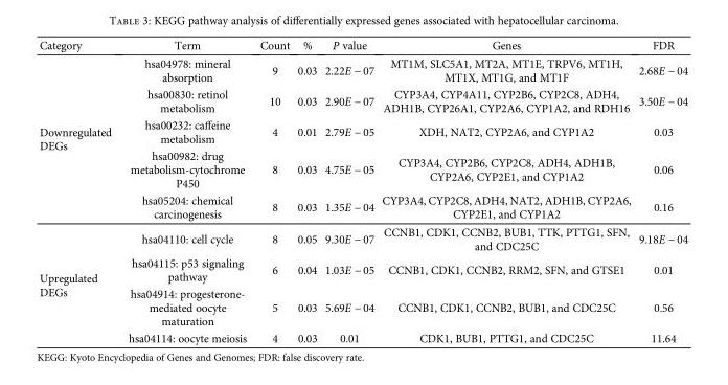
<table><thead><tr><td>Category</td><td>Term</td><td>Count</td><td>%</td><td>P value</td><td>Genes</td><td>FDR</td></tr></thead><tbody><tr><td rowspan="5">Downregulated DEGs</td><td>hsa04978: mineral absorption</td><td>9</td><td>0.03</td><td>2.22E − 07</td><td>MT1M, SLC5A1, MT2A, MT1E, TRPV6, MT1H, MT1X, MT1G, and MT1F</td><td>2.68E − 04</td></tr><tr><td>hsa00830: retinol metabolism</td><td>10</td><td>0.03</td><td>2.90E − 07</td><td>CYP3A4, CYP4A11, CYP2B6, CYP2C8, ADH4, ADH1B, CYP26A1, CYP2A6, CYP1A2, and RDH16</td><td>3.50E − 04</td></tr><tr><td>hsa00232: caffeine metabolism</td><td>4</td><td>0.01</td><td>2.79E − 05</td><td>XDH, NAT2, CYP2A6, and CYP1A2</td><td>0.03</td></tr><tr><td>hsa00982: drug metabolism-cytochrome P450</td><td>8</td><td>0.03</td><td>4.75E − 05</td><td>CYP3A4, CYP2B6, CYP2C8, ADH4, ADH1B, CYP2A6, CYP2E1, and CYP1A2</td><td>0.06</td></tr><tr><td>hsa05204: chemical carcinogenesis</td><td>8</td><td>0.03</td><td>1.35E − 04</td><td>CYP3A4, CYP2C8, ADH4, NAT2, ADH1B, CYP2A6, CYP2E1, and CYP1A2</td><td>0.16</td></tr><tr><td rowspan="4">Upregulated DEGs</td><td>hsa04110: cell cycle</td><td>8</td><td>0.05</td><td>9.30E − 07</td><td>CCNB1, CDK1, CCNB2, BUB1, TTK, PTTG1, SFN, and CDC25C</td><td>9.18E − 04</td></tr><tr><td>hsa04115: p53 signaling pathway</td><td>6</td><td>0.04</td><td>1.03E − 05</td><td>CCNB1, CDK1, CCNB2, RRM2, SFN, and GTSE1</td><td>0.01</td></tr><tr><td>hsa04914: progesterone- mediated oocyte maturation</td><td>5</td><td>0.03</td><td>5.69E − 04</td><td>CCNB1, CDK1, CCNB2, BUB1, and CDC25C</td><td>0.56</td></tr><tr><td>hsa04114: oocyte meiosis</td><td>4</td><td>0.03</td><td>0.01</td><td>CDK1, BUB1, PTTG1, and CDC25C</td><td>11.64</td></tr></tbody></table>